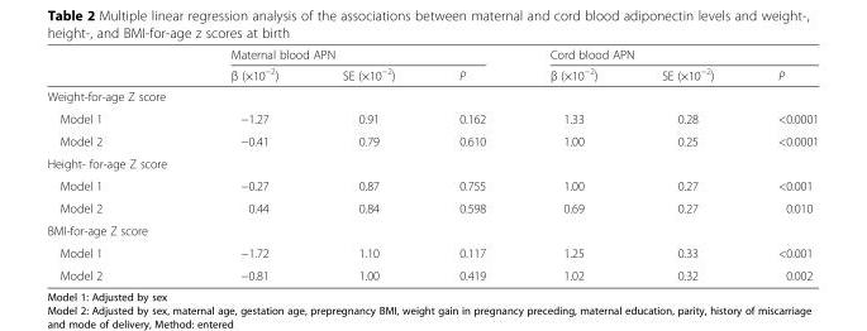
<table><thead><tr><td rowspan="2"></td><td colspan="3">Maternal blood APN</td><td colspan="3">Cord blood APN</td></tr><tr><td>β (×10<sup>−2</sup>)</td><td>SE (×10<sup>−2</sup>)</td><td>P</td><td>β (×10<sup>−2</sup>)</td><td>SE (×10<sup>−2</sup>)</td><td>P</td></tr></thead><tbody><tr><td colspan="7">Weight-for-age Z score</td></tr><tr><td>Model 1</td><td>−1.27</td><td>0.91</td><td>0.162</td><td>1.33</td><td>0.28</td><td>&lt;0.0001</td></tr><tr><td>Model 2</td><td>−0.41</td><td>0.79</td><td>0.610</td><td>1.00</td><td>0.25</td><td>&lt;0.0001</td></tr><tr><td colspan="7">Height- for-age Z score</td></tr><tr><td>Model 1</td><td>−0.27</td><td>0.87</td><td>0.755</td><td>1.00</td><td>0.27</td><td>&lt;0.001</td></tr><tr><td>Model 2</td><td>0.44</td><td>0.84</td><td>0.598</td><td>0.69</td><td>0.27</td><td>0.010</td></tr><tr><td colspan="7">BMI-for-age Z score</td></tr><tr><td>Model 1</td><td>−1.72</td><td>1.10</td><td>0.117</td><td>1.25</td><td>0.33</td><td>&lt;0.001</td></tr><tr><td>Model 2</td><td>−0.81</td><td>1.00</td><td>0.419</td><td>1.02</td><td>0.32</td><td>0.002</td></tr></tbody></table>